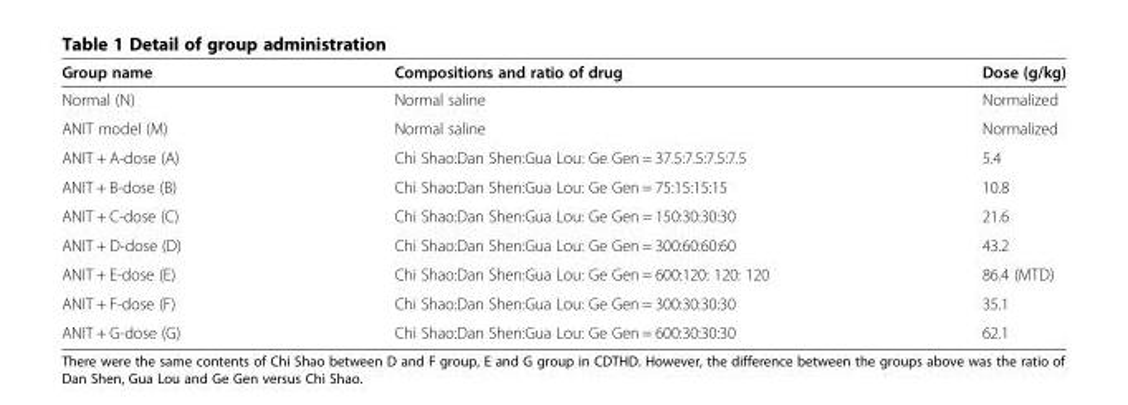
<table><thead><tr><td>Group name</td><td>Compositions and ratio of drug</td><td>Dose (g/kg)</td></tr></thead><tbody><tr><td>Normal (N)</td><td>Normal saline</td><td>Normalized</td></tr><tr><td>ANIT model (M)</td><td>Normal saline</td><td>Normalized</td></tr><tr><td>ANIT + A-dose (A)</td><td>Chi Shao:Dan Shen:Gua Lou: Ge Gen = 37.5:7.5:7.5:7.5</td><td>5.4</td></tr><tr><td>ANIT + B-dose (B)</td><td>Chi Shao:Dan Shen:Gua Lou: Ge Gen = 75:15:15:15</td><td>10.8</td></tr><tr><td>ANIT + C-dose (C)</td><td>Chi Shao:Dan Shen:Gua Lou: Ge Gen = 150:30:30:30</td><td>21.6</td></tr><tr><td>ANIT + D-dose (D)</td><td>Chi Shao:Dan Shen:Gua Lou: Ge Gen = 300:60:60:60</td><td>43.2</td></tr><tr><td>ANIT + E-dose (E)</td><td>Chi Shao:Dan Shen:Gua Lou: Ge Gen = 600:120: 120: 120</td><td>86.4 (MTD)</td></tr><tr><td>ANIT + F-dose (F)</td><td>Chi Shao:Dan Shen:Gua Lou: Ge Gen = 300:30:30:30</td><td>35.1</td></tr><tr><td>ANIT + G-dose (G)</td><td>Chi Shao:Dan Shen:Gua Lou: Ge Gen = 600:30:30:30</td><td>62.1</td></tr></tbody></table>